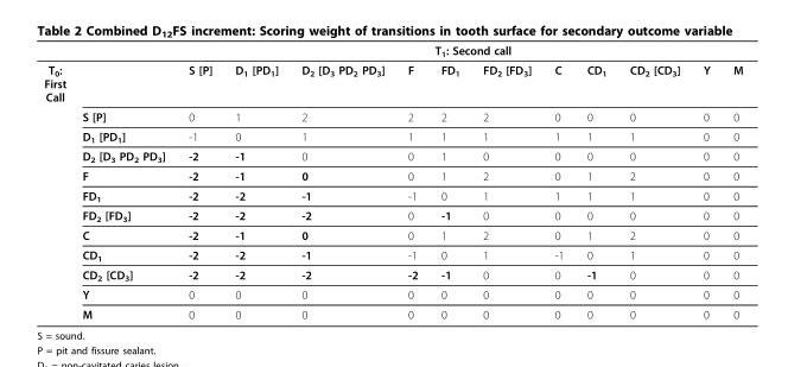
<table><thead><tr><td rowspan="2">T<sub>0</sub>: First Call</td><td rowspan="2"></td><td colspan="11">T<sub>1</sub>: Second call</td></tr><tr><td>S [P]</td><td>D<sub>1</sub> [PD<sub>1</sub>]</td><td>D<sub>2</sub> [D<sub>3</sub> PD<sub>2</sub> PD<sub>3</sub>]</td><td>F</td><td>FD<sub>1</sub></td><td>FD<sub>2</sub> [FD<sub>3</sub>]</td><td>C</td><td>CD<sub>1</sub></td><td>CD<sub>2</sub> [CD<sub>3</sub>]</td><td>Y</td><td>M</td></tr></thead><tbody><tr><td></td><td>S [P]</td><td>0</td><td>1</td><td>2</td><td>2</td><td>2</td><td>2</td><td>0</td><td>0</td><td>0</td><td>0</td><td>0</td></tr><tr><td></td><td>D<sub>1</sub> [PD<sub>1</sub>]</td><td>-1</td><td>0</td><td>1</td><td>1</td><td>1</td><td>1</td><td>1</td><td>1</td><td>1</td><td>0</td><td>0</td></tr><tr><td></td><td>D<sub>2</sub> [D<sub>3</sub> PD<sub>2</sub> PD<sub>3</sub>]</td><td>-2</td><td>-1</td><td>0</td><td>0</td><td>1</td><td>0</td><td>0</td><td>0</td><td>0</td><td>0</td><td>0</td></tr><tr><td></td><td>F</td><td>-2</td><td>-1</td><td>0</td><td>0</td><td>1</td><td>2</td><td>0</td><td>1</td><td>2</td><td>0</td><td>0</td></tr><tr><td></td><td>FD<sub>1</sub></td><td>-2</td><td>-2</td><td>-1</td><td>-1</td><td>0</td><td>1</td><td>1</td><td>1</td><td>1</td><td>0</td><td>0</td></tr><tr><td></td><td>FD<sub>2</sub> [FD<sub>3</sub>]</td><td>-2</td><td>-2</td><td>-2</td><td>0</td><td>-1</td><td>0</td><td>0</td><td>0</td><td>0</td><td>0</td><td>0</td></tr><tr><td></td><td>C</td><td>-2</td><td>-1</td><td>0</td><td>0</td><td>1</td><td>2</td><td>0</td><td>1</td><td>2</td><td>0</td><td>0</td></tr><tr><td></td><td>CD<sub>1</sub></td><td>-2</td><td>-2</td><td>-1</td><td>-1</td><td>0</td><td>1</td><td>-1</td><td>0</td><td>1</td><td>0</td><td>0</td></tr><tr><td></td><td>CD<sub>2</sub> [CD<sub>3</sub>]</td><td>-2</td><td>-2</td><td>-2</td><td>-2</td><td>-1</td><td>0</td><td>0</td><td>-1</td><td>0</td><td>0</td><td>0</td></tr><tr><td></td><td>Y</td><td>0</td><td>0</td><td>0</td><td>0</td><td>0</td><td>0</td><td>0</td><td>0</td><td>0</td><td>0</td><td>0</td></tr><tr><td></td><td>M</td><td>0</td><td>0</td><td>0</td><td>0</td><td>0</td><td>0</td><td>0</td><td>0</td><td>0</td><td>0</td><td>0</td></tr></tbody></table>